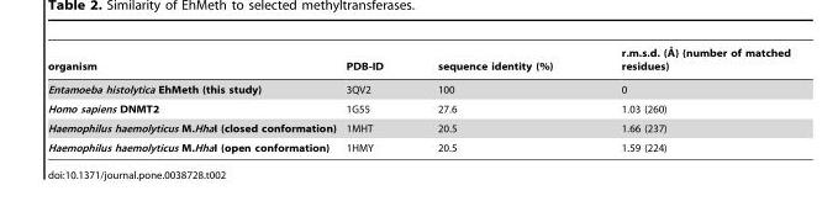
<table><thead><tr><td>organism</td><td>PDB-ID</td><td>sequence identity (%)</td><td>r.m.s.d. (A˚ ) (number of matched residues)</td></tr></thead><tbody><tr><td>Entamoeba histolytica EhMeth (this study)</td><td>3QV2</td><td>100</td><td>0</td></tr><tr><td>Homo sapiens DNMT2</td><td>1G55</td><td>27.6</td><td>1.03 (260)</td></tr><tr><td>Haemophilus haemolyticus M.HhaI (closed conformation)</td><td>1MHT</td><td>20.5</td><td>1.66 (237)</td></tr><tr><td>Haemophilus haemolyticus M.HhaI (open conformation)</td><td>1HMY</td><td>20.5</td><td>1.59 (224)</td></tr></tbody></table>